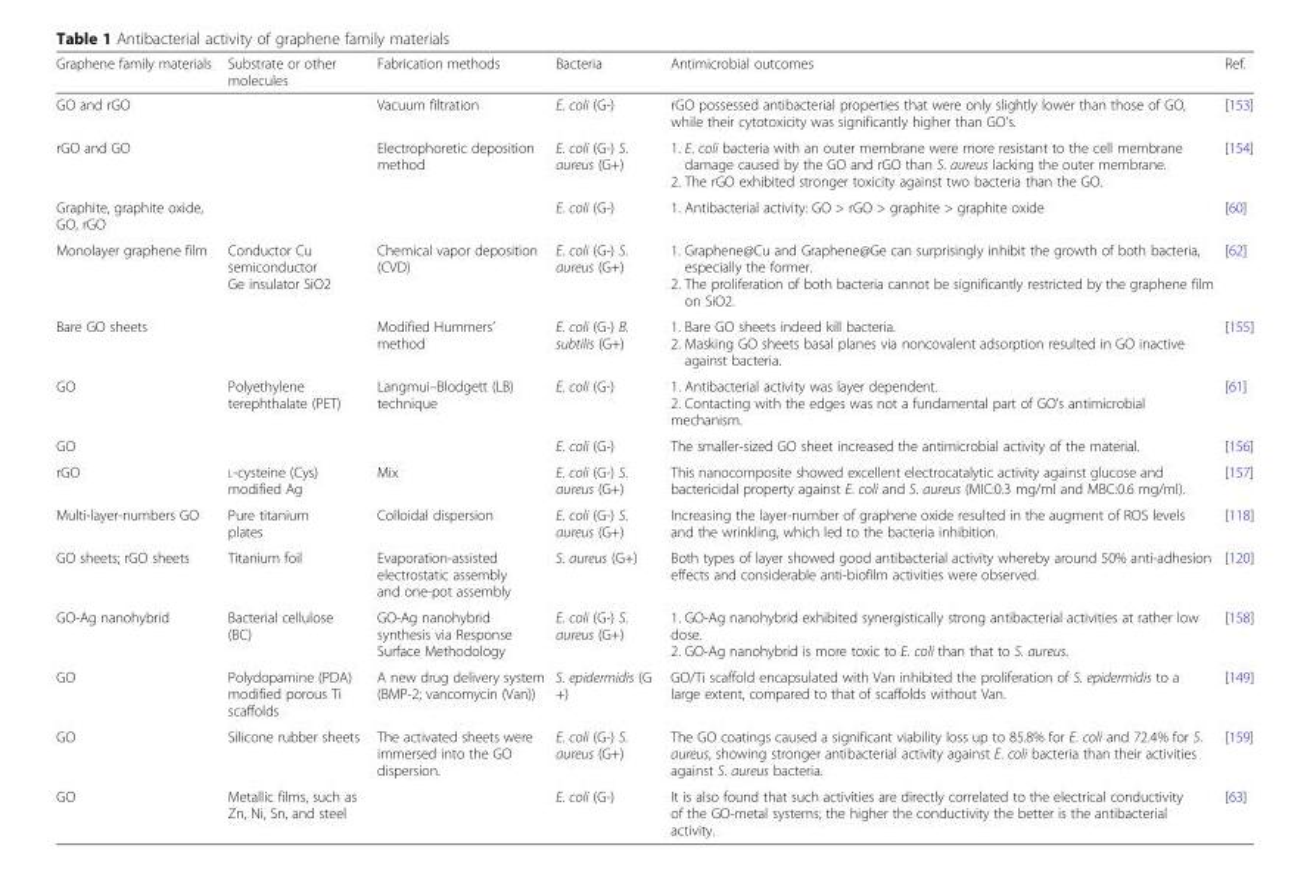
<table><thead><tr><td>Graphene family materials</td><td>Substrate or other molecules</td><td>Fabrication methods</td><td>Bacteria</td><td>Antimicrobial outcomes</td><td>Ref.</td></tr></thead><tbody><tr><td>GO and rGO</td><td></td><td>Vacuum filtration</td><td>E. coli (G-)</td><td>rGO possessed antibacterial properties that were only slightly lower than those of GO, while their cytotoxicity was significantly higher than GO’s.</td><td>[153]</td></tr><tr><td>rGO and GO</td><td></td><td>Electrophoretic deposition method</td><td>E. coli (G-) S. aureus (G+)</td><td>1. E. coli bacteria with an outer membrane were more resistant to the cell membrane damage caused by the GO and rGO than S. aureus lacking the outer membrane. 2. The rGO exhibited stronger toxicity against two bacteria than the GO.</td><td>[154]</td></tr><tr><td>Graphite, graphite oxide, GO, rGO</td><td></td><td></td><td>E. coli (G-)</td><td>1. Antibacterial activity: GO &gt; rGO &gt; graphite &gt; graphite oxide</td><td>[60]</td></tr><tr><td>Monolayer graphene film</td><td>Conductor Cu semiconductor Ge insulator SiO2</td><td>Chemical vapor deposition (CVD)</td><td>E. coli (G-) S. aureus (G+)</td><td>1. Graphene@Cu and Graphene@Ge can surprisingly inhibit the growth of both bacteria, especially the former. 2. The proliferation of both bacteria cannot be significantly restricted by the graphene film on SiO2.</td><td>[62]</td></tr><tr><td>Bare GO sheets</td><td></td><td>Modified Hummers’ method</td><td>E. coli (G-) B. subtilis (G+)</td><td>1. Bare GO sheets indeed kill bacteria. 2. Masking GO sheets basal planes via noncovalent adsorption resulted in GO inactive against bacteria.</td><td>[155]</td></tr><tr><td>GO</td><td>Polyethylene terephthalate (PET)</td><td>Langmui–Blodgett (LB) technique</td><td>E. coli (G-)</td><td>1. Antibacterial activity was layer dependent. 2. Contacting with the edges was not a fundamental part of GO’s antimicrobial mechanism.</td><td>[61]</td></tr><tr><td>GO</td><td></td><td></td><td>E. coli (G-)</td><td>The smaller-sized GO sheet increased the antimicrobial activity of the material.</td><td>[156]</td></tr><tr><td>rGO</td><td>L-cysteine (Cys) modified Ag</td><td>Mix</td><td>E. coli (G-) S. aureus (G+)</td><td>This nanocomposite showed excellent electrocatalytic activity against glucose and bactericidal property against E. coli and S. aureus (MIC:0.3 mg/ml and MBC:0.6 mg/ml).</td><td>[157]</td></tr><tr><td>Multi-layer-numbers GO</td><td>Pure titanium plates</td><td>Colloidal dispersion</td><td>E. coli (G-) S. aureus (G+)</td><td>Increasing the layer-number of graphene oxide resulted in the augment of ROS levels and the wrinkling, which led to the bacteria inhibition.</td><td>[118]</td></tr><tr><td>GO sheets; rGO sheets</td><td>Titanium foil</td><td>Evaporation-assisted electrostatic assembly and one-pot assembly</td><td>S. aureus (G+)</td><td>Both types of layer showed good antibacterial activity whereby around 50% anti-adhesion effects and considerable anti-biofilm activities were observed.</td><td>[120]</td></tr><tr><td>GO-Ag nanohybrid</td><td>Bacterial cellulose (BC)</td><td>GO-Ag nanohybrid synthesis via Response Surface Methodology</td><td>E. coli (G-) S. aureus (G+)</td><td>1. GO-Ag nanohybrid exhibited synergistically strong antibacterial activities at rather low dose. 2. GO-Ag nanohybrid is more toxic to E. coli than that to S. aureus.</td><td>[158]</td></tr><tr><td>GO</td><td>Polydopamine (PDA) modified porous Ti scaffolds</td><td>A new drug delivery system (BMP-2; vancomycin (Van))</td><td>S. epidermidis (G +)</td><td>GO/Ti scaffold encapsulated with Van inhibited the proliferation of S. epidermidis to a large extent, compared to that of scaffolds without Van.</td><td>[149]</td></tr><tr><td>GO</td><td>Silicone rubber sheets</td><td>The activated sheets were immersed into the GO dispersion.</td><td>E. coli (G-) S. aureus (G+)</td><td>The GO coatings caused a significant viability loss up to 85.8% for E. coli and 72.4% for S. aureus, showing stronger antibacterial activity against E. coli bacteria than their activities against S. aureus bacteria.</td><td>[159]</td></tr><tr><td>GO</td><td>Metallic films, such as Zn, Ni, Sn, and steel</td><td></td><td>E. coli (G-)</td><td>It is also found that such activities are directly correlated to the electrical conductivity of the GO-metal systems; the higher the conductivity the better is the antibacterial activity.</td><td>[63]</td></tr></tbody></table>